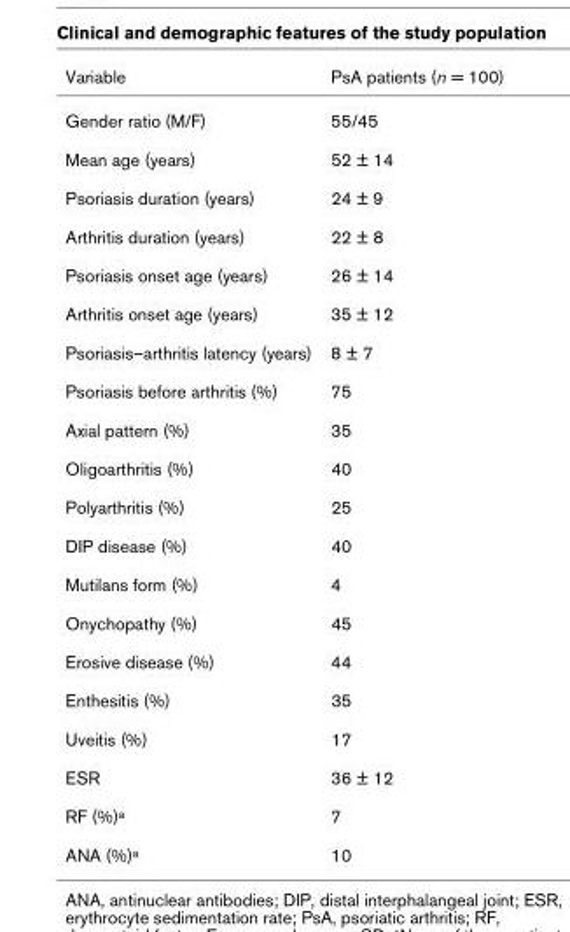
<table><thead><tr><td>Variable</td><td>PsA patients (n = 100)</td></tr></thead><tbody><tr><td>Gender ratio (M/F)</td><td>55/45</td></tr><tr><td>Mean age (years)</td><td>52 ± 14</td></tr><tr><td>Psoriasis duration (years)</td><td>24 ± 9</td></tr><tr><td>Arthritis duration (years)</td><td>22 ± 8</td></tr><tr><td>Psoriasis onset age (years)</td><td>26 ± 14</td></tr><tr><td>Arthritis onset age (years)</td><td>35 ± 12</td></tr><tr><td>Psoriasis–arthritis latency (years)</td><td>8 ± 7</td></tr><tr><td>Psoriasis before arthritis (%)</td><td>75</td></tr><tr><td>Axial pattern (%)</td><td>35</td></tr><tr><td>Oligoarthritis (%)</td><td>40</td></tr><tr><td>Polyarthritis (%)</td><td>25</td></tr><tr><td>DIP disease (%)</td><td>40</td></tr><tr><td>Mutilans form (%)</td><td>4</td></tr><tr><td>Onychopathy (%)</td><td>45</td></tr><tr><td>Erosive disease (%)</td><td>44</td></tr><tr><td>Enthesitis (%)</td><td>35</td></tr><tr><td>Uveitis (%)</td><td>17</td></tr><tr><td>ESR</td><td>36 ± 12</td></tr><tr><td>RF (%)a</td><td>7</td></tr><tr><td>ANA (%)a</td><td>10</td></tr></tbody></table>